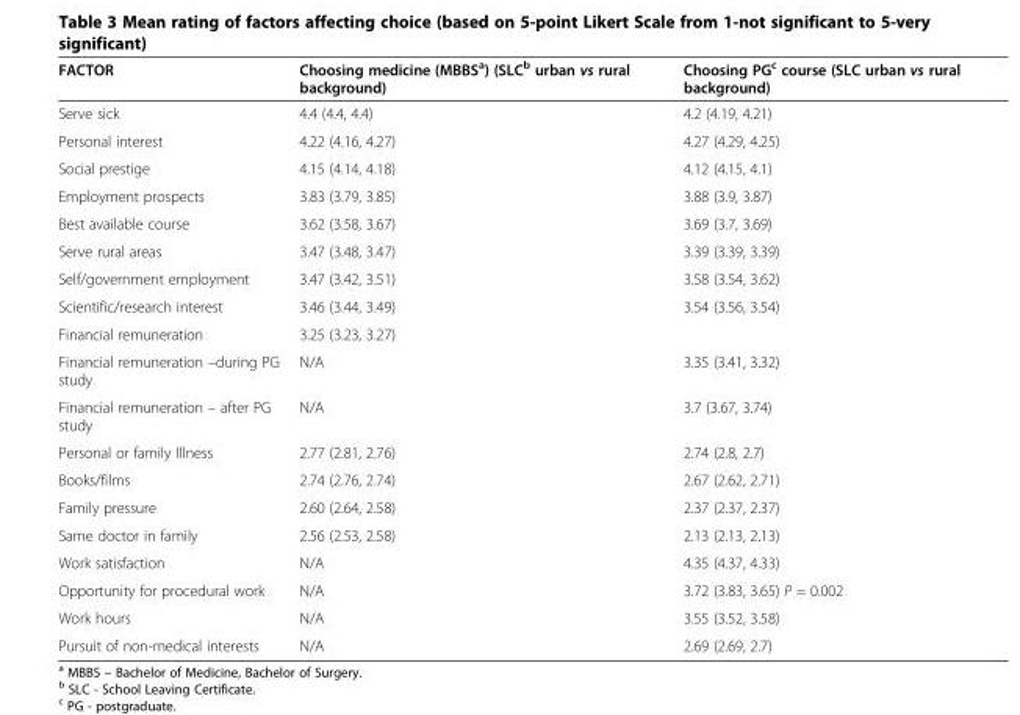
<table><thead><tr><td>FACTOR</td><td>Choosing medicine (MBBS<sup>a</sup>) (SLC<sup>b</sup> urban vs rural background)</td><td>Choosing PG<sup>c</sup> course (SLC urban vs rural background)</td></tr></thead><tbody><tr><td>Serve sick</td><td>4.4 (4.4, 4.4)</td><td>4.2 (4.19, 4.21)</td></tr><tr><td>Personal interest</td><td>4.22 (4.16, 4.27)</td><td>4.27 (4.29, 4.25)</td></tr><tr><td>Social prestige</td><td>4.15 (4.14, 4.18)</td><td>4.12 (4.15, 4.1)</td></tr><tr><td>Employment prospects</td><td>3.83 (3.79, 3.85)</td><td>3.88 (3.9, 3.87)</td></tr><tr><td>Best available course</td><td>3.62 (3.58, 3.67)</td><td>3.69 (3.7, 3.69)</td></tr><tr><td>Serve rural areas</td><td>3.47 (3.48, 3.47)</td><td>3.39 (3.39, 3.39)</td></tr><tr><td>Self/government employment</td><td>3.47 (3.42, 3.51)</td><td>3.58 (3.54, 3.62)</td></tr><tr><td>Scientific/research interest</td><td>3.46 (3.44, 3.49)</td><td>3.54 (3.56, 3.54)</td></tr><tr><td>Financial remuneration</td><td>3.25 (3.23, 3.27)</td><td></td></tr><tr><td>Financial remuneration –during PG study</td><td>N/A</td><td>3.35 (3.41, 3.32)</td></tr><tr><td>Financial remuneration – after PG study</td><td>N/A</td><td>3.7 (3.67, 3.74)</td></tr><tr><td>Personal or family Illness</td><td>2.77 (2.81, 2.76)</td><td>2.74 (2.8, 2.7)</td></tr><tr><td>Books/films</td><td>2.74 (2.76, 2.74)</td><td>2.67 (2.62, 2.71)</td></tr><tr><td>Family pressure</td><td>2.60 (2.64, 2.58)</td><td>2.37 (2.37, 2.37)</td></tr><tr><td>Same doctor in family</td><td>2.56 (2.53, 2.58)</td><td>2.13 (2.13, 2.13)</td></tr><tr><td>Work satisfaction</td><td>N/A</td><td>4.35 (4.37, 4.33)</td></tr><tr><td>Opportunity for procedural work</td><td>N/A</td><td>3.72 (3.83, 3.65) P = 0.002</td></tr><tr><td>Work hours</td><td>N/A</td><td>3.55 (3.52, 3.58)</td></tr><tr><td>Pursuit of non-medical interests</td><td>N/A</td><td>2.69 (2.69, 2.7)</td></tr></tbody></table>